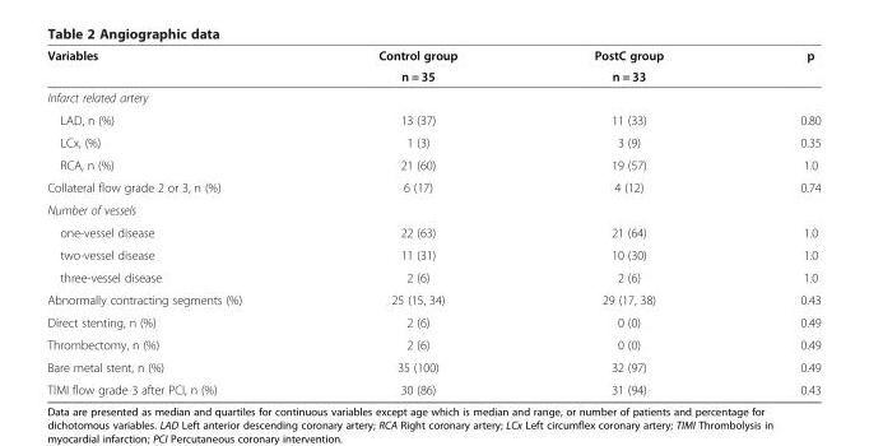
<table><thead><tr><td rowspan="2">Variables</td><td rowspan="2">Control group n = 35</td><td rowspan="2">PostC group n = 33</td><td rowspan="2">p</td></tr><tr></tr></thead><tbody><tr><td colspan="4">Infarct related artery</td></tr><tr><td>LAD, n (%)</td><td>13 (37)</td><td>11 (33)</td><td>0.80</td></tr><tr><td>LCx, (%)</td><td>1 (3)</td><td>3 (9)</td><td>0.35</td></tr><tr><td>RCA, n (%)</td><td>21 (60)</td><td>19 (57)</td><td>1.0</td></tr><tr><td>Collateral flow grade 2 or 3, n (%)</td><td>6 (17)</td><td>4 (12)</td><td>0.74</td></tr><tr><td colspan="4">Number of vessels</td></tr><tr><td>one-vessel disease</td><td>22 (63)</td><td>21 (64)</td><td>1.0</td></tr><tr><td>two-vessel disease</td><td>11 (31)</td><td>10 (30)</td><td>1.0</td></tr><tr><td>three-vessel disease</td><td>2 (6)</td><td>2 (6)</td><td>1.0</td></tr><tr><td>Abnormally contracting segments (%)</td><td>25 (15, 34)</td><td>29 (17, 38)</td><td>0.43</td></tr><tr><td>Direct stenting, n (%)</td><td>2 (6)</td><td>0 (0)</td><td>0.49</td></tr><tr><td>Thrombectomy, n (%)</td><td>2 (6)</td><td>0 (0)</td><td>0.49</td></tr><tr><td>Bare metal stent, n (%)</td><td>35 (100)</td><td>32 (97)</td><td>0.49</td></tr><tr><td>TIMI flow grade 3 after PCI, n (%)</td><td>30 (86)</td><td>31 (94)</td><td>0.43</td></tr></tbody></table>